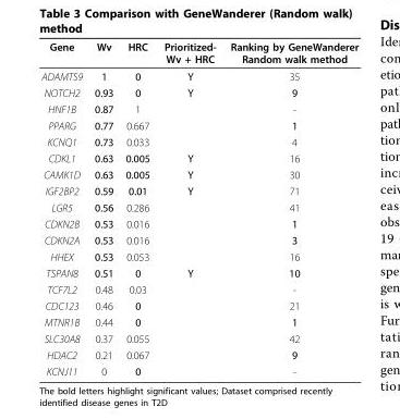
<table><thead><tr><td>Gene</td><td>Wv</td><td>HRC</td><td>Prioritized- Wv + HRC</td><td>Ranking by GeneWanderer Random walk method</td></tr></thead><tbody><tr><td>ADAMTS9</td><td>1</td><td>0</td><td>Y</td><td>35</td></tr><tr><td>NOTCH2</td><td>0.93</td><td>0</td><td>Y</td><td>9</td></tr><tr><td>HNF1B</td><td>0.87</td><td>1</td><td></td><td>-</td></tr><tr><td>PPARG</td><td>0.77</td><td>0.667</td><td></td><td>1</td></tr><tr><td>KCNQ1</td><td>0.73</td><td>0.033</td><td></td><td>4</td></tr><tr><td>CDKL1</td><td>0.63</td><td>0.005</td><td>Y</td><td>16</td></tr><tr><td>CAMK1D</td><td>0.63</td><td>0.005</td><td>Y</td><td>30</td></tr><tr><td>IGF2BP2</td><td>0.59</td><td>0.01</td><td>Y</td><td>71</td></tr><tr><td>LGR5</td><td>0.56</td><td>0.286</td><td></td><td>41</td></tr><tr><td>CDKN2B</td><td>0.53</td><td>0.016</td><td></td><td>1</td></tr><tr><td>CDKN2A</td><td>0.53</td><td>0.016</td><td></td><td>3</td></tr><tr><td>HHEX</td><td>0.53</td><td>0.053</td><td></td><td>16</td></tr><tr><td>TSPAN8</td><td>0.51</td><td>0</td><td>Y</td><td>10</td></tr><tr><td>TCF7L2</td><td>0.48</td><td>0.03</td><td></td><td>-</td></tr><tr><td>CDC123</td><td>0.46</td><td>0</td><td></td><td>21</td></tr><tr><td>MTNR1B</td><td>0.44</td><td>0</td><td></td><td>1</td></tr><tr><td>SLC30A8</td><td>0.37</td><td>0.055</td><td></td><td>42</td></tr><tr><td>HDAC2</td><td>0.21</td><td>0.067</td><td></td><td>9</td></tr><tr><td>KCNJ11</td><td>0</td><td>0</td><td></td><td>-</td></tr></tbody></table>